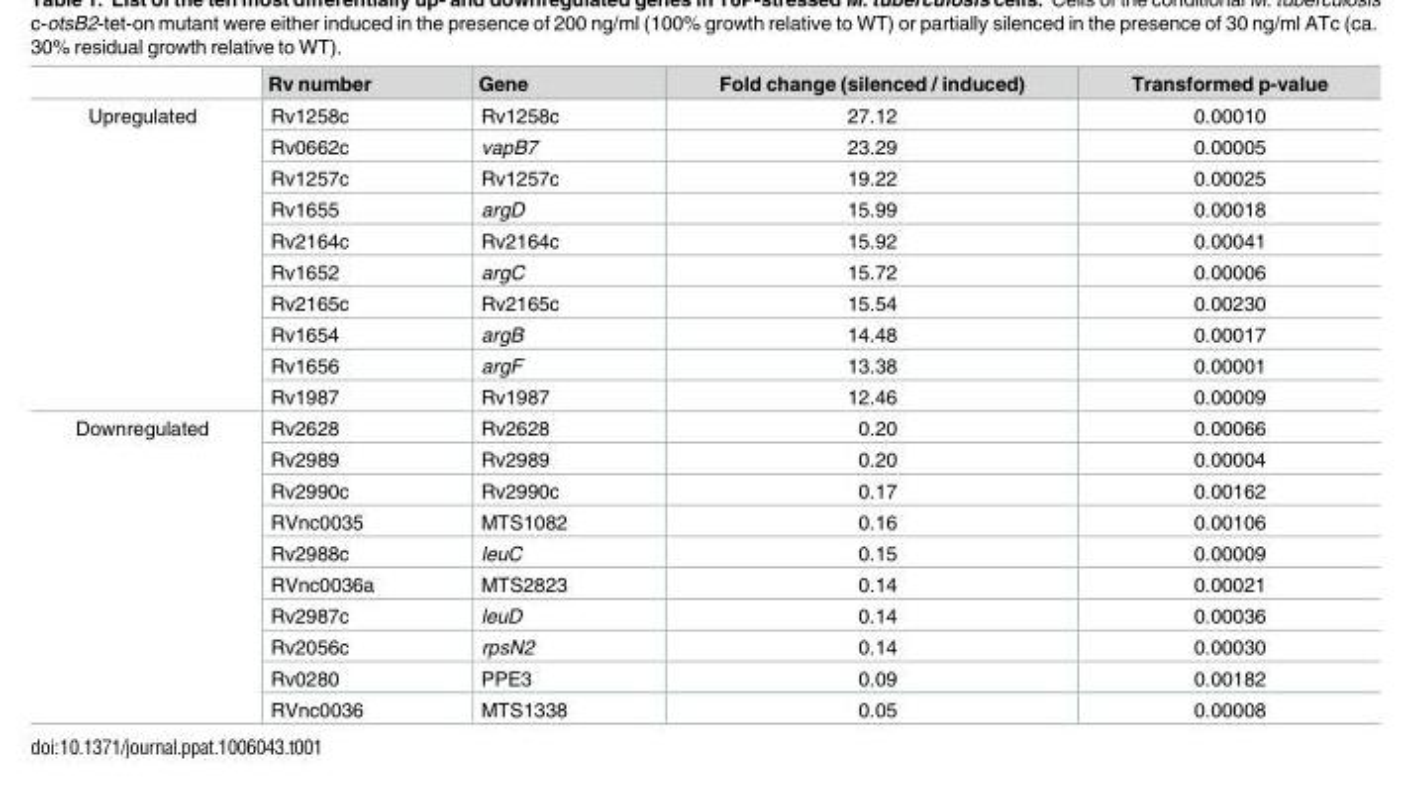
<table><thead><tr><td></td><td>Rv number</td><td>Gene</td><td>Fold change (silenced / induced)</td><td>Transformed p-value</td></tr></thead><tbody><tr><td rowspan="10">Upregulated</td><td>Rv1258c</td><td>Rv1258c</td><td>27.12</td><td>0.00010</td></tr><tr><td>Rv0662c</td><td>vapB7</td><td>23.29</td><td>0.00005</td></tr><tr><td>Rv1257c</td><td>Rv1257c</td><td>19.22</td><td>0.00025</td></tr><tr><td>Rv1655</td><td>argD</td><td>15.99</td><td>0.00018</td></tr><tr><td>Rv2164c</td><td>Rv2164c</td><td>15.92</td><td>0.00041</td></tr><tr><td>Rv1652</td><td>argC</td><td>15.72</td><td>0.00006</td></tr><tr><td>Rv2165c</td><td>Rv2165c</td><td>15.54</td><td>0.00230</td></tr><tr><td>Rv1654</td><td>argB</td><td>14.48</td><td>0.00017</td></tr><tr><td>Rv1656</td><td>argF</td><td>13.38</td><td>0.00001</td></tr><tr><td>Rv1987</td><td>Rv1987</td><td>12.46</td><td>0.00009</td></tr><tr><td rowspan="10">Downregulated</td><td>Rv2628</td><td>Rv2628</td><td>0.20</td><td>0.00066</td></tr><tr><td>Rv2989</td><td>Rv2989</td><td>0.20</td><td>0.00004</td></tr><tr><td>Rv2990c</td><td>Rv2990c</td><td>0.17</td><td>0.00162</td></tr><tr><td>RVnc0035</td><td>MTS1082</td><td>0.16</td><td>0.00106</td></tr><tr><td>Rv2988c</td><td>leuC</td><td>0.15</td><td>0.00009</td></tr><tr><td>RVnc0036a</td><td>MTS2823</td><td>0.14</td><td>0.00021</td></tr><tr><td>Rv2987c</td><td>leuD</td><td>0.14</td><td>0.00036</td></tr><tr><td>Rv2056c</td><td>rpsN2</td><td>0.14</td><td>0.00030</td></tr><tr><td>Rv0280</td><td>PPE3</td><td>0.09</td><td>0.00182</td></tr><tr><td>RVnc0036</td><td>MTS1338</td><td>0.05</td><td>0.00008</td></tr></tbody></table>